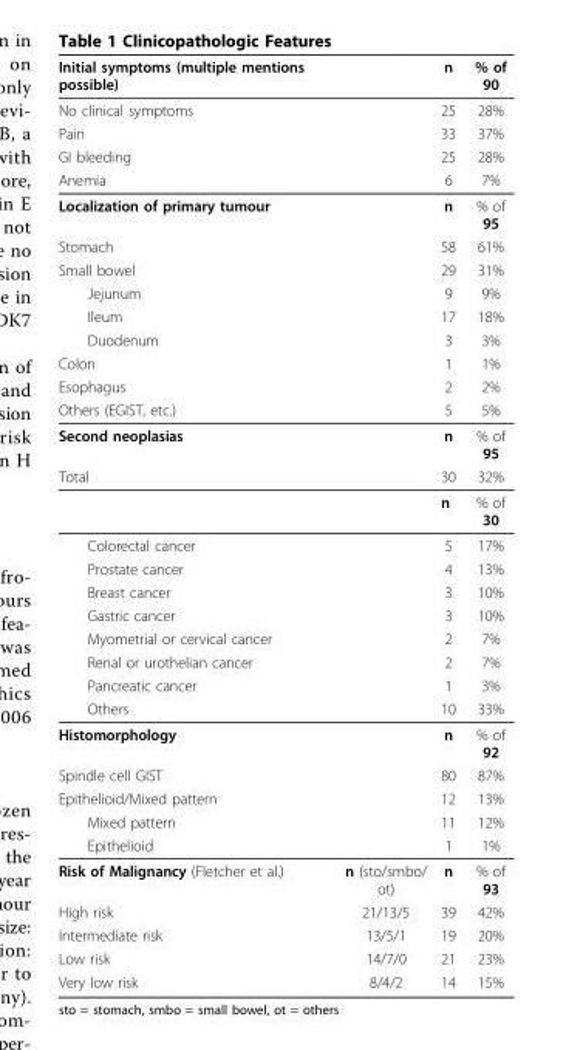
<table><thead><tr><td>Initial symptoms (multiple mentions possible)</td><td></td><td>n</td><td>% of 90</td></tr></thead><tbody><tr><td>No clinical symptoms</td><td></td><td>25</td><td>28%</td></tr><tr><td>Pain</td><td></td><td>33</td><td>37%</td></tr><tr><td>GI bleeding</td><td></td><td>25</td><td>28%</td></tr><tr><td>Anemia</td><td></td><td>6</td><td>7%</td></tr><tr><td>Localization of primary tumour</td><td></td><td>n</td><td>% of 95</td></tr><tr><td>Stomach</td><td></td><td>58</td><td>61%</td></tr><tr><td>Small bowel</td><td></td><td>29</td><td>31%</td></tr><tr><td>Jejunum</td><td></td><td>9</td><td>9%</td></tr><tr><td>Ileum</td><td></td><td>17</td><td>18%</td></tr><tr><td>Duodenum</td><td></td><td>3</td><td>3%</td></tr><tr><td>Colon</td><td></td><td>1</td><td>1%</td></tr><tr><td>Esophagus</td><td></td><td>2</td><td>2%</td></tr><tr><td>Others (EGIST, etc.)</td><td></td><td>5</td><td>5%</td></tr><tr><td>Second neoplasias</td><td></td><td>n</td><td>% of 95</td></tr><tr><td rowspan="2">Total</td><td></td><td>30</td><td>32%</td></tr><tr><td></td><td>n</td><td>% of 30</td></tr><tr><td>Colorectal cancer</td><td></td><td>5</td><td>17%</td></tr><tr><td>Prostate cancer</td><td></td><td>4</td><td>13%</td></tr><tr><td>Breast cancer</td><td></td><td>3</td><td>10%</td></tr><tr><td>Gastric cancer</td><td></td><td>3</td><td>10%</td></tr><tr><td>Myometrial or cervical cancer</td><td></td><td>2</td><td>7%</td></tr><tr><td>Renal or urothelian cancer</td><td></td><td>2</td><td>7%</td></tr><tr><td>Pancreatic cancer</td><td></td><td>1</td><td>3%</td></tr><tr><td>Others</td><td></td><td>10</td><td>33%</td></tr><tr><td>Histomorphology</td><td></td><td>n</td><td>% of 92</td></tr><tr><td>Spindle cell GIST</td><td></td><td>80</td><td>87%</td></tr><tr><td>Epithelioid/Mixed pattern</td><td></td><td>12</td><td>13%</td></tr><tr><td>Mixed pattern</td><td></td><td>11</td><td>12%</td></tr><tr><td>Epithelioid</td><td></td><td>1</td><td>1%</td></tr><tr><td>Risk of Malignancy (Fletcher et al.)</td><td>n (sto/smbo/ ot)</td><td>n</td><td>% of 93</td></tr><tr><td>High risk</td><td>21/13/5</td><td>39</td><td>42%</td></tr><tr><td>Intermediate risk</td><td>13/5/1</td><td>19</td><td>20%</td></tr><tr><td>Low risk</td><td>14/7/0</td><td>21</td><td>23%</td></tr><tr><td>Very low risk</td><td>8/4/2</td><td>14</td><td>15%</td></tr></tbody></table>